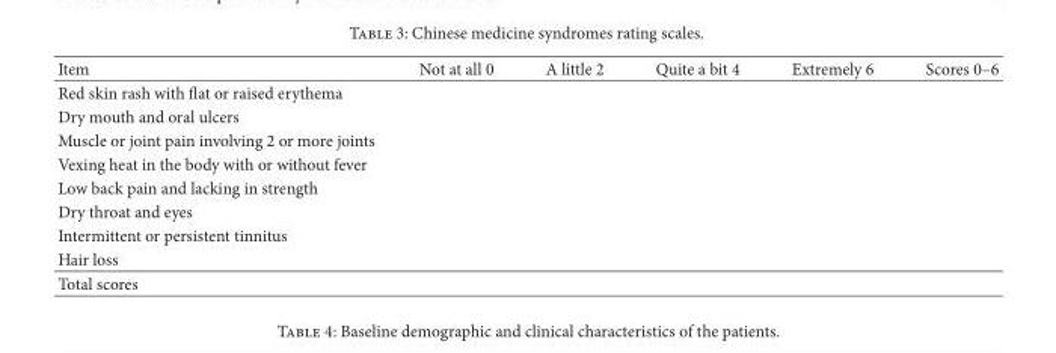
<table><thead><tr><td>Item</td><td>Not at all 0</td><td>A little 2</td><td>Quite a bit 4</td><td>Extremely 6</td><td>Scores 0–6</td></tr></thead><tbody><tr><td colspan="6">Red skin rash with flat or raised erythema</td></tr><tr><td colspan="6">Dry mouth and oral ulcers</td></tr><tr><td colspan="6">Muscle or joint pain involving 2 or more joints</td></tr><tr><td colspan="6">Vexing heat in the body with or without fever</td></tr><tr><td colspan="6">Low back pain and lacking in strength</td></tr><tr><td colspan="6">Dry throat and eyes</td></tr><tr><td colspan="6">Intermittent or persistent tinnitus</td></tr><tr><td colspan="6">Hair loss</td></tr><tr><td>Total scores</td><td></td><td></td><td></td><td></td><td></td></tr></tbody></table>